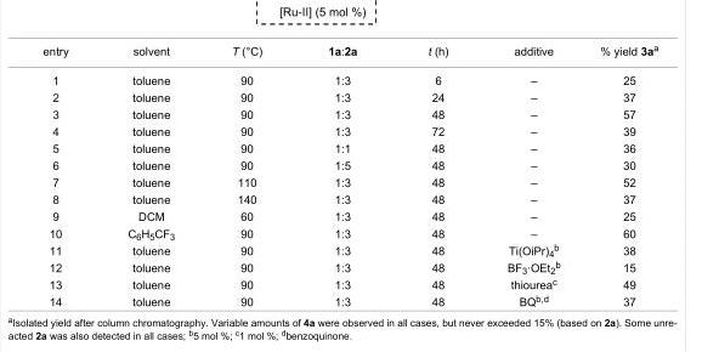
<table><tbody><tr><td>entry</td><td>solvent</td><td>T (°C)</td><td>1a:2a</td><td>t (h)</td><td>additive</td><td>% yield 3a<sup>a</sup></td></tr><tr><td>1</td><td>toluene</td><td>90</td><td>1:3</td><td>6</td><td>–</td><td>25</td></tr><tr><td>2</td><td>toluene</td><td>90</td><td>1:3</td><td>24</td><td>–</td><td>37</td></tr><tr><td>3</td><td>toluene</td><td>90</td><td>1:3</td><td>48</td><td>–</td><td>57</td></tr><tr><td>4</td><td>toluene</td><td>90</td><td>1:3</td><td>72</td><td>–</td><td>39</td></tr><tr><td>5</td><td>toluene</td><td>90</td><td>1:1</td><td>48</td><td>–</td><td>36</td></tr><tr><td>6</td><td>toluene</td><td>90</td><td>1:5</td><td>48</td><td>–</td><td>30</td></tr><tr><td>7</td><td>toluene</td><td>110</td><td>1:3</td><td>48</td><td>–</td><td>52</td></tr><tr><td>8</td><td>toluene</td><td>140</td><td>1:3</td><td>48</td><td>–</td><td>37</td></tr><tr><td>9</td><td>DCM</td><td>60</td><td>1:3</td><td>48</td><td>–</td><td>25</td></tr><tr><td>10</td><td>C<sub>6</sub>H<sub>5</sub>CF<sub>3</sub></td><td>90</td><td>1:3</td><td>48</td><td>–</td><td>60</td></tr><tr><td>11</td><td>toluene</td><td>90</td><td>1:3</td><td>48</td><td>Ti(OiPr)<sub>4</sub><sup>b</sup></td><td>38</td></tr><tr><td>12</td><td>toluene</td><td>90</td><td>1:3</td><td>48</td><td>BF<sub>3</sub>·OEt<sub>2</sub><sup>b</sup></td><td>15</td></tr><tr><td>13</td><td>toluene</td><td>90</td><td>1:3</td><td>48</td><td>thiourea<sup>c</sup></td><td>49</td></tr><tr><td>14</td><td>toluene</td><td>90</td><td>1:3</td><td>48</td><td>BQ<sup>b,d</sup></td><td>37</td></tr></tbody></table>